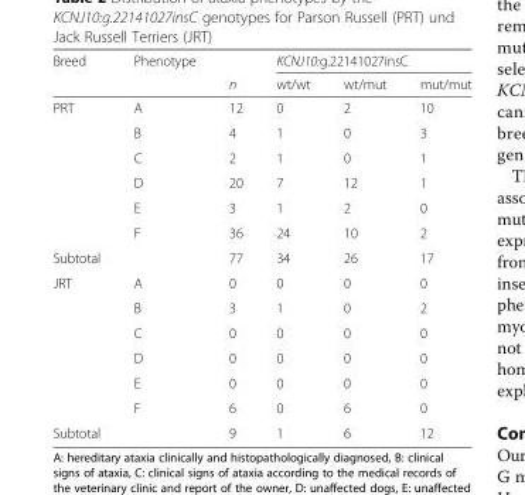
<table><thead><tr><td rowspan="2">Breed</td><td rowspan="2">Phenotype</td><td rowspan="2">n</td><td colspan="3">KCNJ10:g.22141027insC</td></tr><tr><td>wt/wt</td><td>wt/mut</td><td>mut/mut</td></tr></thead><tbody><tr><td rowspan="6">PRT</td><td>A</td><td>12</td><td>0</td><td>2</td><td>10</td></tr><tr><td>B</td><td>4</td><td>1</td><td>0</td><td>3</td></tr><tr><td>C</td><td>2</td><td>1</td><td>0</td><td>1</td></tr><tr><td>D</td><td>20</td><td>7</td><td>12</td><td>1</td></tr><tr><td>E</td><td>3</td><td>1</td><td>2</td><td>0</td></tr><tr><td>F</td><td>36</td><td>24</td><td>10</td><td>2</td></tr><tr><td>Subtotal</td><td></td><td>77</td><td>34</td><td>26</td><td>17</td></tr><tr><td rowspan="6">JRT</td><td>A</td><td>0</td><td>0</td><td>0</td><td>0</td></tr><tr><td>B</td><td>3</td><td>1</td><td>0</td><td>2</td></tr><tr><td>C</td><td>0</td><td>0</td><td>0</td><td>0</td></tr><tr><td>D</td><td>0</td><td>0</td><td>0</td><td>0</td></tr><tr><td>E</td><td>0</td><td>0</td><td>0</td><td>0</td></tr><tr><td>F</td><td>6</td><td>0</td><td>6</td><td>0</td></tr><tr><td>Subtotal</td><td></td><td>9</td><td>1</td><td>6</td><td>12</td></tr></tbody></table>